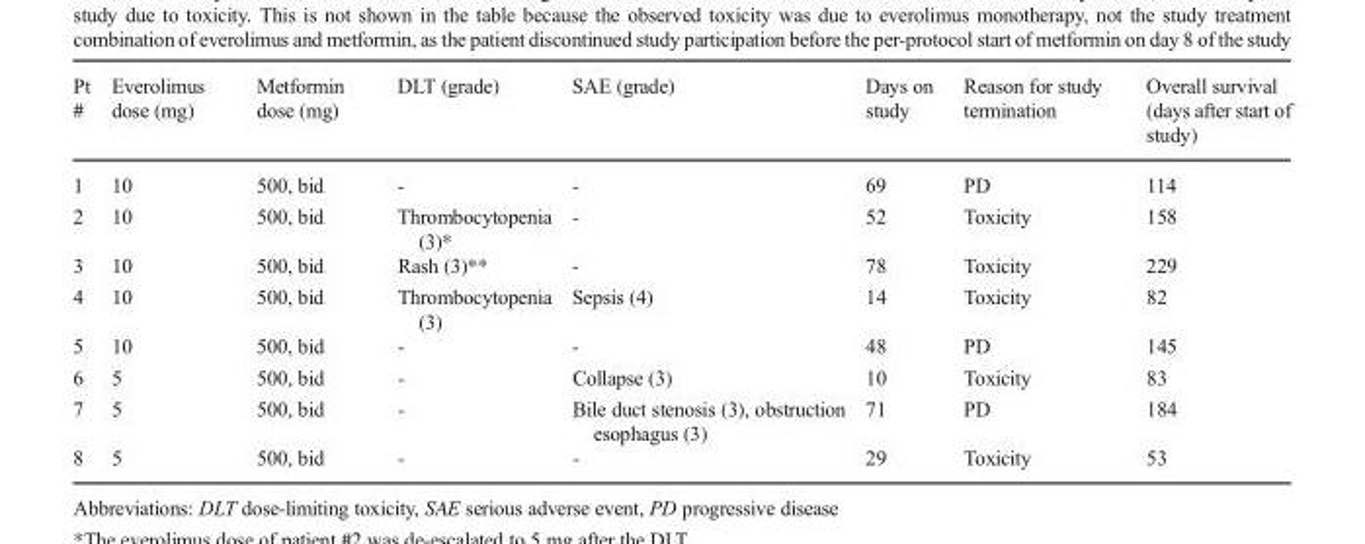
<table><thead><tr><td>Pt #</td><td>Everolimus dose (mg)</td><td>Metformin dose (mg)</td><td>DLT (grade)</td><td>SAE (grade)</td><td>Days on study</td><td>Reason for study termination</td><td>Overall survival (days after start of study)</td></tr></thead><tbody><tr><td>1</td><td>10</td><td>500, bid</td><td>-</td><td>-</td><td>69</td><td>PD</td><td>114</td></tr><tr><td>2</td><td>10</td><td>500, bid</td><td>Thrombocytopenia (3)*</td><td>-</td><td>52</td><td>Toxicity</td><td>158</td></tr><tr><td>3</td><td>10</td><td>500, bid</td><td>Rash (3)**</td><td>-</td><td>78</td><td>Toxicity</td><td>229</td></tr><tr><td>4</td><td>10</td><td>500, bid</td><td>Thrombocytopenia (3)</td><td>Sepsis (4)</td><td>14</td><td>Toxicity</td><td>82</td></tr><tr><td>5</td><td>10</td><td>500, bid</td><td>-</td><td>-</td><td>48</td><td>PD</td><td>145</td></tr><tr><td>6</td><td>5</td><td>500, bid</td><td>-</td><td>Collapse (3)</td><td>10</td><td>Toxicity</td><td>83</td></tr><tr><td>7</td><td>5</td><td>500, bid</td><td>-</td><td>Bile duct stenosis (3), obstruction esophagus (3)</td><td>71</td><td>PD</td><td>184</td></tr><tr><td>8</td><td>5</td><td>500, bid</td><td>-</td><td>-</td><td>29</td><td>Toxicity</td><td>53</td></tr></tbody></table>